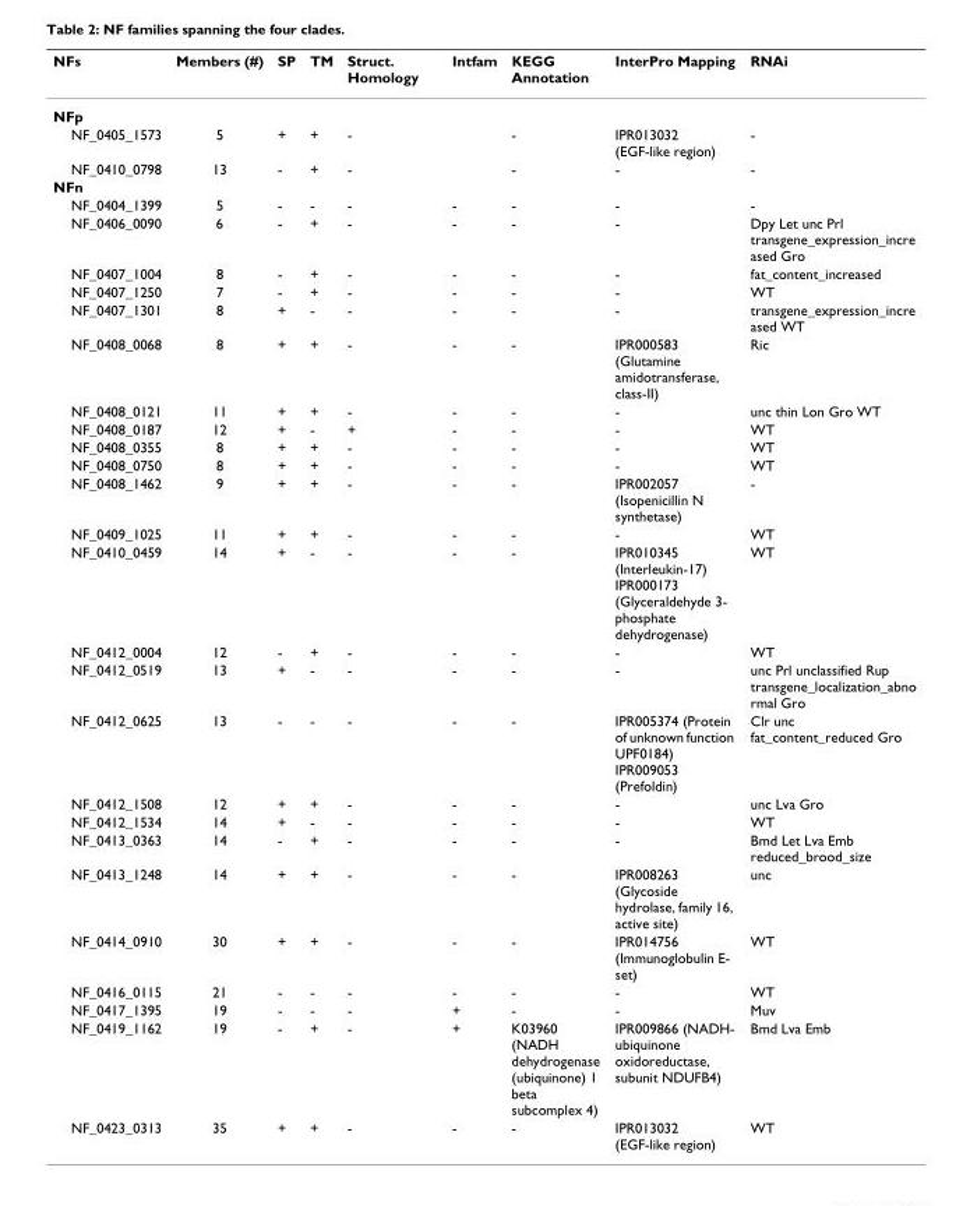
<table><thead><tr><td>NFs</td><td>Members (#)</td><td>SP</td><td>TM</td><td>Struct. Homology</td><td>Intfam</td><td>KEGG Annotation</td><td>InterPro Mapping</td><td>RNAi</td></tr></thead><tbody><tr><td colspan="9">NFp</td></tr><tr><td>NF_0405_1573</td><td>5</td><td>+</td><td>+</td><td>-</td><td></td><td>-</td><td>IPR013032 (EGF-like region)</td><td>-</td></tr><tr><td>NF_0410_0798</td><td>13</td><td>-</td><td>+</td><td>-</td><td></td><td>-</td><td>-</td><td>-</td></tr><tr><td colspan="9">NFn</td></tr><tr><td>NF_0404_1399</td><td>5</td><td>-</td><td>-</td><td>-</td><td>-</td><td>-</td><td>-</td><td>-</td></tr><tr><td>NF_0406_0090</td><td>6</td><td>-</td><td>+</td><td>-</td><td>-</td><td>-</td><td>-</td><td>Dpy Let unc Prl transgene_expression_incre ased Gro</td></tr><tr><td>NF_0407_1004</td><td>8</td><td>-</td><td>+</td><td>-</td><td>-</td><td>-</td><td>-</td><td>fat_content_increased</td></tr><tr><td>NF_0407_1250</td><td>7</td><td>-</td><td>+</td><td>-</td><td>-</td><td>-</td><td>-</td><td>WT</td></tr><tr><td>NF_0407_1301</td><td>8</td><td>+</td><td>-</td><td>-</td><td>-</td><td>-</td><td>-</td><td>transgene_expression_incre ased WT</td></tr><tr><td>NF_0408_0068</td><td>8</td><td>+</td><td>+</td><td>-</td><td>-</td><td>-</td><td>IPR000583 (Glutamine amidotransferase, class-II)</td><td>Ric</td></tr><tr><td>NF_0408_0121</td><td>11</td><td>+</td><td>+</td><td>-</td><td>-</td><td>-</td><td>-</td><td>unc thin Lon Gro WT</td></tr><tr><td>NF_0408_0187</td><td>12</td><td>+</td><td>-</td><td>+</td><td>-</td><td>-</td><td>-</td><td>WT</td></tr><tr><td>NF_0408_0355</td><td>8</td><td>+</td><td>+</td><td>-</td><td>-</td><td>-</td><td>-</td><td>WT</td></tr><tr><td>NF_0408_0750</td><td>8</td><td>+</td><td>+</td><td>-</td><td>-</td><td>-</td><td>-</td><td>WT</td></tr><tr><td>NF_0408_1462</td><td>9</td><td>+</td><td>+</td><td>-</td><td>-</td><td>-</td><td>IPR002057 (Isopenicillin N synthetase)</td><td>-</td></tr><tr><td>NF_0409_1025</td><td>11</td><td>+</td><td>+</td><td>-</td><td>-</td><td>-</td><td>-</td><td>WT</td></tr><tr><td>NF_0410_0459</td><td>14</td><td>+</td><td>-</td><td>-</td><td>-</td><td>-</td><td>IPR010345 (Interleukin-17) IPR000173 (Glyceraldehyde 3- phosphate dehydrogenase)</td><td>WT</td></tr><tr><td>NF_0412_0004</td><td>12</td><td>-</td><td>+</td><td>-</td><td>-</td><td>-</td><td>-</td><td>WT</td></tr><tr><td>NF_0412_0519</td><td>13</td><td>+</td><td>-</td><td>-</td><td>-</td><td>-</td><td>-</td><td>unc Prl unclassified Rup transgene_localization_abno rmal Gro</td></tr><tr><td>NF_0412_0625</td><td>13</td><td>-</td><td>-</td><td>-</td><td>-</td><td>-</td><td>IPR005374 (Protein of unknown function UPF0184) IPR009053 (Prefoldin)</td><td>Clr unc fat_content_reduced Gro</td></tr><tr><td>NF_0412_1508</td><td>12</td><td>+</td><td>+</td><td>-</td><td>-</td><td>-</td><td>-</td><td>unc Lva Gro</td></tr><tr><td>NF_0412_1534</td><td>14</td><td>+</td><td>-</td><td>-</td><td>-</td><td>-</td><td>-</td><td>WT</td></tr><tr><td>NF_0413_0363</td><td>14</td><td>-</td><td>+</td><td>-</td><td>-</td><td>-</td><td>-</td><td>Bmd Let Lva Emb reduced_brood_size</td></tr><tr><td>NF_0413_1248</td><td>14</td><td>+</td><td>+</td><td>-</td><td>-</td><td>-</td><td>IPR008263 (Glycoside hydrolase, family 16, active site)</td><td>unc</td></tr><tr><td>NF_0414_0910</td><td>30</td><td>+</td><td>+</td><td>-</td><td>-</td><td>-</td><td>IPR014756 (Immunoglobulin E- set)</td><td>WT</td></tr><tr><td>NF_0416_0115</td><td>21</td><td>-</td><td>-</td><td>-</td><td>-</td><td>-</td><td>-</td><td>WT</td></tr><tr><td>NF_0417_1395</td><td>19</td><td>-</td><td>-</td><td>-</td><td>+</td><td>-</td><td>-</td><td>Muv</td></tr><tr><td>NF_0419_1162</td><td>19</td><td>-</td><td>+</td><td>-</td><td>+</td><td>K03960 (NADH dehydrogenase (ubiquinone) 1 beta subcomplex 4)</td><td>IPR009866 (NADH- ubiquinone oxidoreductase, subunit NDUFB4)</td><td>Bmd Lva Emb</td></tr><tr><td>NF_0423_0313</td><td>35</td><td>+</td><td>+</td><td>-</td><td>-</td><td>-</td><td>IPR013032 (EGF-like region)</td><td>WT</td></tr></tbody></table>